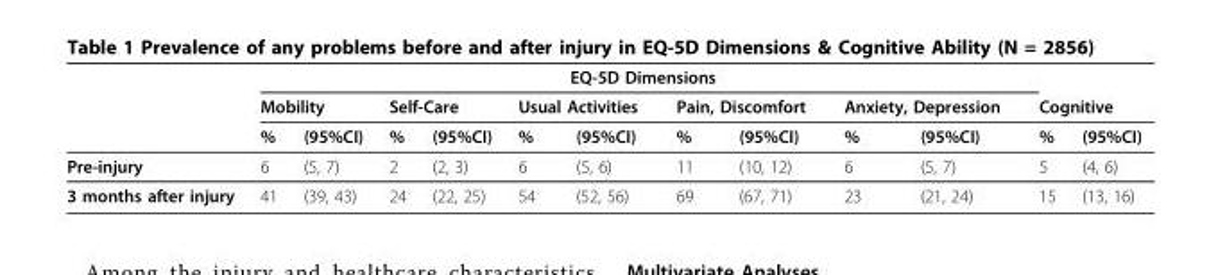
<table><thead><tr><td rowspan="3"></td><td colspan="10">EQ-5D Dimensions</td><td></td><td></td></tr><tr><td colspan="2">Mobility</td><td colspan="2">Self-Care</td><td colspan="2">Usual Activities</td><td colspan="2">Pain, Discomfort</td><td colspan="2">Anxiety, Depression</td><td colspan="2">Cognitive</td></tr><tr><td>%</td><td>(95%CI)</td><td>%</td><td>(95%CI)</td><td>%</td><td>(95%CI)</td><td>%</td><td>(95%CI)</td><td>%</td><td>(95%CI)</td><td>%</td><td>(95%CI)</td></tr></thead><tbody><tr><td>Pre-injury</td><td>6</td><td>(5, 7)</td><td>2</td><td>(2, 3)</td><td>6</td><td>(5, 6)</td><td>11</td><td>(10, 12)</td><td>6</td><td>(5, 7)</td><td>5</td><td>(4, 6)</td></tr><tr><td>3 months after injury</td><td>41</td><td>(39, 43)</td><td>24</td><td>(22, 25)</td><td>54</td><td>(52, 56)</td><td>69</td><td>(67, 71)</td><td>23</td><td>(21, 24)</td><td>15</td><td>(13, 16)</td></tr></tbody></table>